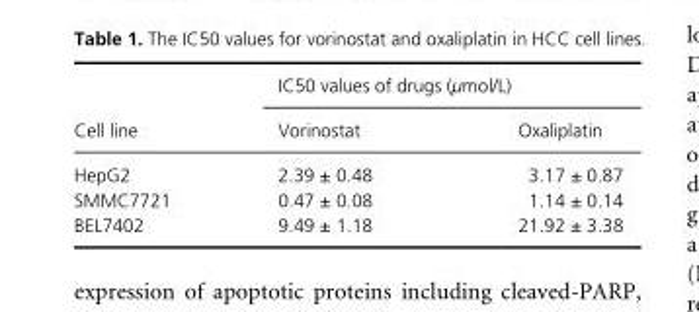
<table><thead><tr><td rowspan="2">Cell line</td><td colspan="2">IC50 values of drugs (μmol/L)</td></tr><tr><td>Vorinostat</td><td>Oxaliplatin</td></tr></thead><tbody><tr><td>HepG2</td><td>2.39 ± 0.48</td><td>3.17 ± 0.87</td></tr><tr><td>SMMC7721</td><td>0.47 ± 0.08</td><td>1.14 ± 0.14</td></tr><tr><td>BEL7402</td><td>9.49 ± 1.18</td><td>21.92 ± 3.38</td></tr></tbody></table>